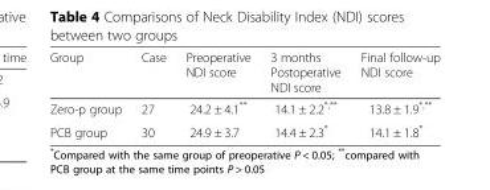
<table><thead><tr><td>Group</td><td>Case</td><td>Preoperative NDI score</td><td>3 months Postoperative NDI score</td><td>Final follow-up NDI score</td></tr></thead><tbody><tr><td>Zero-p group</td><td>27</td><td>24.2 ± 4.1**</td><td>14.1 ± 2.2<sup>*,**</sup></td><td>13.8 ± 1.9<sup>*,**</sup></td></tr><tr><td>PCB group</td><td>30</td><td>24.9 ± 3.7</td><td>14.4 ± 2.3*</td><td>14.1 ± 1.8*</td></tr></tbody></table>